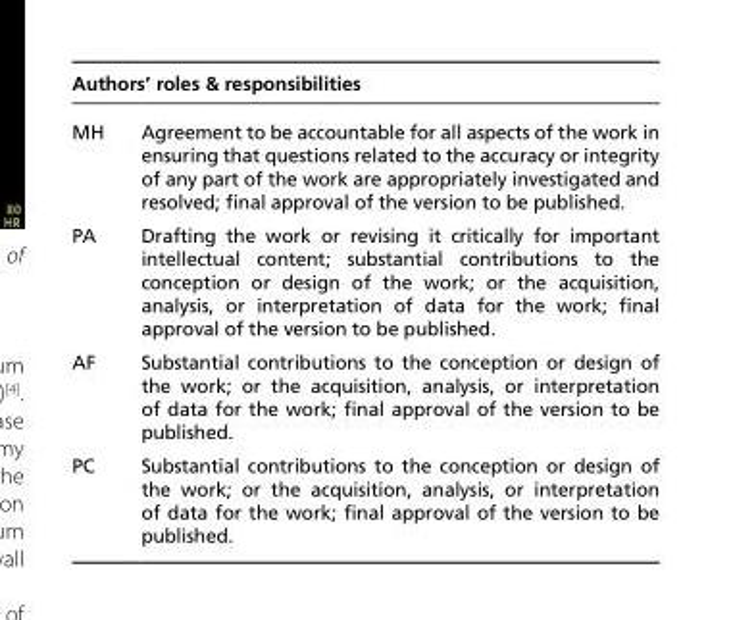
<table><thead><tr><td colspan="2">Authors’ roles &amp; responsibilities</td></tr><tr><td>MH</td><td>Agreement to be accountable for all aspects of the work in ensuring that questions related to the accuracy or integrity of any part of the work are appropriately investigated and resolved; final approval of the version to be published.</td></tr></thead><tbody><tr><td>PA</td><td>Drafting the work or revising it critically for important intellectual content; substantial contributions to the conception or design of the work; or the acquisition, analysis, or interpretation of data for the work; final approval of the version to be published.</td></tr><tr><td>AF</td><td>Substantial contributions to the conception or design of the work; or the acquisition, analysis, or interpretation of data for the work; final approval of the version to be published.</td></tr><tr><td>PC</td><td>Substantial contributions to the conception or design of the work; or the acquisition, analysis, or interpretation of data for the work; final approval of the version to be published.</td></tr></tbody></table>